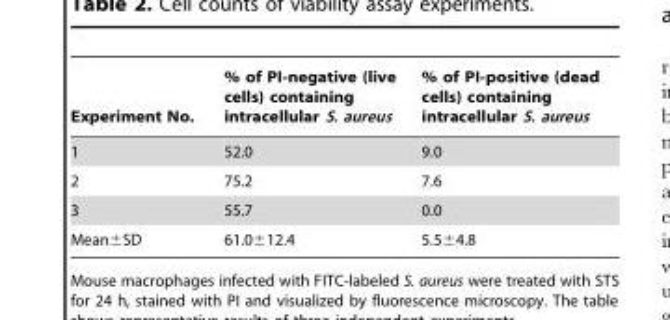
<table><thead><tr><td>Experiment No.</td><td>% of PI-negative (live cells) containing intracellular S. aureus</td><td>% of PI-positive (dead cells) containing intracellular S. aureus</td></tr></thead><tbody><tr><td>1</td><td>52.0</td><td>9.0</td></tr><tr><td>2</td><td>75.2</td><td>7.6</td></tr><tr><td>3</td><td>55.7</td><td>0.0</td></tr><tr><td>Mean±SD</td><td>61.0±12.4</td><td>5.5±4.8</td></tr></tbody></table>